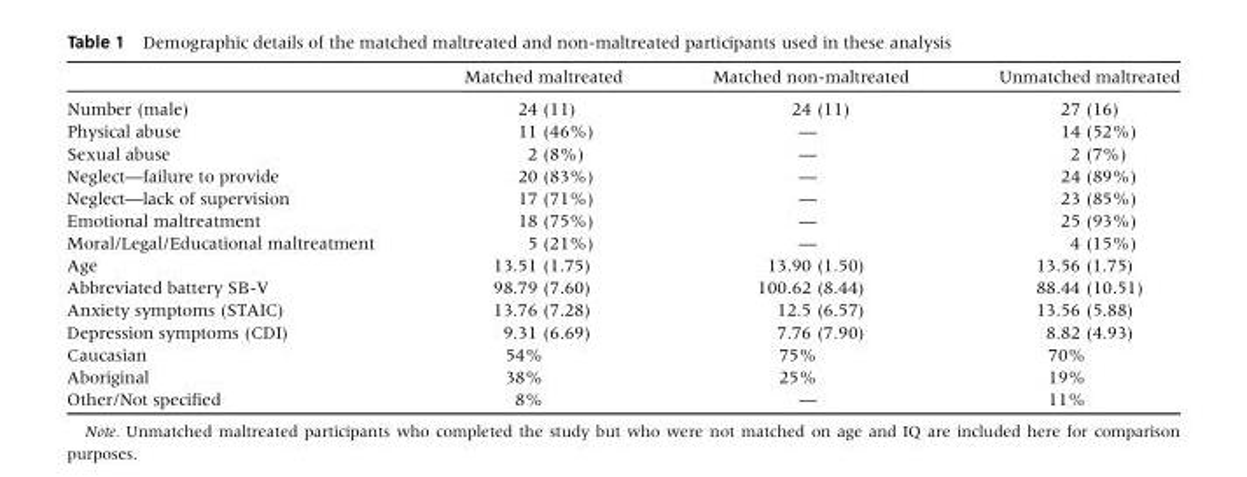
<table><thead><tr><td></td><td>Matched maltreated</td><td>Matched non-maltreated</td><td>Unmatched maltreated</td></tr></thead><tbody><tr><td>Number (male)</td><td>24 (11)</td><td>24 (11)</td><td>27 (16)</td></tr><tr><td>Physical abuse</td><td>11 (46%)</td><td>—</td><td>14 (52%)</td></tr><tr><td>Sexual abuse</td><td>2 (8%)</td><td>—</td><td>2 (7%)</td></tr><tr><td>Neglect—failure to provide</td><td>20 (83%)</td><td>—</td><td>24 (89%)</td></tr><tr><td>Neglect—lack of supervision</td><td>17 (71%)</td><td>—</td><td>23 (85%)</td></tr><tr><td>Emotional maltreatment</td><td>18 (75%)</td><td>—</td><td>25 (93%)</td></tr><tr><td>Moral/Legal/Educational maltreatment</td><td>5 (21%)</td><td>—</td><td>4 (15%)</td></tr><tr><td>Age</td><td>13.51 (1.75)</td><td>13.90 (1.50)</td><td>13.56 (1.75)</td></tr><tr><td>Abbreviated battery SB-V</td><td>98.79 (7.60)</td><td>100.62 (8.44)</td><td>88.44 (10.51)</td></tr><tr><td>Anxiety symptoms (STAIC)</td><td>13.76 (7.28)</td><td>12.5 (6.57)</td><td>13.56 (5.88)</td></tr><tr><td>Depression symptoms (CDI)</td><td>9.31 (6.69)</td><td>7.76 (7.90)</td><td>8.82 (4.93)</td></tr><tr><td>Caucasian</td><td>54%</td><td>75%</td><td>70%</td></tr><tr><td>Aboriginal</td><td>38%</td><td>25%</td><td>19%</td></tr><tr><td>Other/Not specified</td><td>8%</td><td>—</td><td>11%</td></tr></tbody></table>